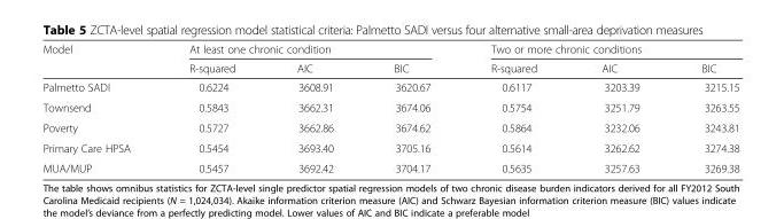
<table><thead><tr><td rowspan="2">Model</td><td colspan="3">At least one chronic condition</td><td colspan="3">Two or more chronic conditions</td></tr><tr><td>R-squared</td><td>AIC</td><td>BIC</td><td>R-squared</td><td>AIC</td><td>BIC</td></tr></thead><tbody><tr><td>Palmetto SADI</td><td>0.6224</td><td>3608.91</td><td>3620.67</td><td>0.6117</td><td>3203.39</td><td>3215.15</td></tr><tr><td>Townsend</td><td>0.5843</td><td>3662.31</td><td>3674.06</td><td>0.5754</td><td>3251.79</td><td>3263.55</td></tr><tr><td>Poverty</td><td>0.5727</td><td>3662.86</td><td>3674.62</td><td>0.5864</td><td>3232.06</td><td>3243.81</td></tr><tr><td>Primary Care HPSA</td><td>0.5454</td><td>3693.40</td><td>3705.16</td><td>0.5614</td><td>3262.62</td><td>3274.38</td></tr><tr><td>MUA/MUP</td><td>0.5457</td><td>3692.42</td><td>3704.17</td><td>0.5635</td><td>3257.63</td><td>3269.38</td></tr></tbody></table>